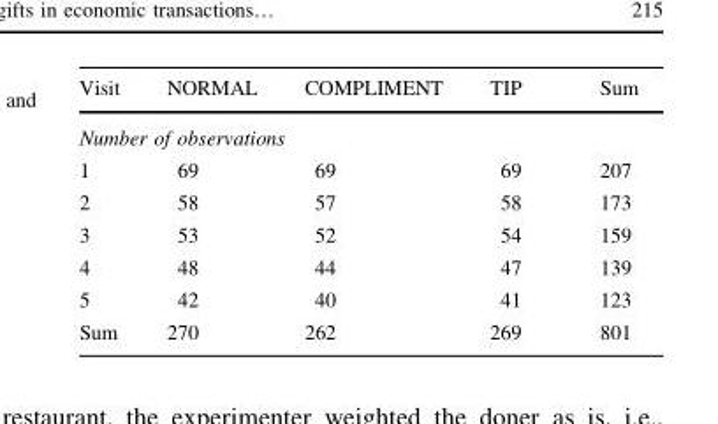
<table><thead><tr><td>Visit</td><td>NORMAL</td><td>COMPLIMENT</td><td>TIP</td><td>Sum</td></tr></thead><tbody><tr><td colspan="5">Number of observations</td></tr><tr><td>1</td><td>69</td><td>69</td><td>69</td><td>207</td></tr><tr><td>2</td><td>58</td><td>57</td><td>58</td><td>173</td></tr><tr><td>3</td><td>53</td><td>52</td><td>54</td><td>159</td></tr><tr><td>4</td><td>48</td><td>44</td><td>47</td><td>139</td></tr><tr><td>5</td><td>42</td><td>40</td><td>41</td><td>123</td></tr><tr><td>Sum</td><td>270</td><td>262</td><td>269</td><td>801</td></tr></tbody></table>